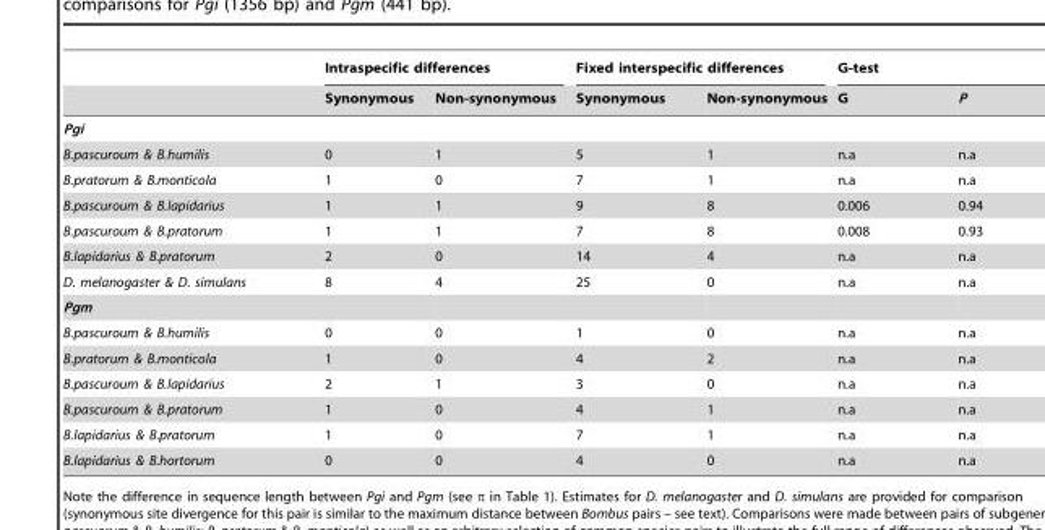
<table><thead><tr><td rowspan="2"></td><td colspan="2">Intraspecific differences</td><td colspan="2">Fixed interspecific differences</td><td colspan="2">G-test</td></tr><tr><td>Synonymous</td><td>Non-synonymous</td><td>Synonymous</td><td>Non-synonymous</td><td>G</td><td>P</td></tr></thead><tbody><tr><td colspan="7">Pgi</td></tr><tr><td>B.pascuroum &amp; B.humilis</td><td>0</td><td>1</td><td>5</td><td>1</td><td>n.a</td><td>n.a</td></tr><tr><td>B.pratorum &amp; B.monticola</td><td>1</td><td>0</td><td>7</td><td>1</td><td>n.a</td><td>n.a</td></tr><tr><td>B.pascuroum &amp; B.lapidarius</td><td>1</td><td>1</td><td>9</td><td>8</td><td>0.006</td><td>0.94</td></tr><tr><td>B.pascuroum &amp; B.pratorum</td><td>1</td><td>1</td><td>7</td><td>8</td><td>0.008</td><td>0.93</td></tr><tr><td>B.lapidarius &amp; B.pratorum</td><td>2</td><td>0</td><td>14</td><td>4</td><td>n.a</td><td>n.a</td></tr><tr><td>D. melanogaster &amp; D. simulans</td><td>8</td><td>4</td><td>25</td><td>0</td><td>n.a</td><td>n.a</td></tr><tr><td colspan="7">Pgm</td></tr><tr><td>B.pascuroum &amp; B.humilis</td><td>0</td><td>0</td><td>1</td><td>0</td><td>n.a</td><td>n.a</td></tr><tr><td>B.pratorum &amp; B.monticola</td><td>1</td><td>0</td><td>4</td><td>2</td><td>n.a</td><td>n.a</td></tr><tr><td>B.pascuroum &amp; B.lapidarius</td><td>2</td><td>1</td><td>3</td><td>0</td><td>n.a</td><td>n.a</td></tr><tr><td>B.pascuroum &amp; B.pratorum</td><td>1</td><td>0</td><td>4</td><td>1</td><td>n.a</td><td>n.a</td></tr><tr><td>B.lapidarius &amp; B.pratorum</td><td>1</td><td>0</td><td>7</td><td>1</td><td>n.a</td><td>n.a</td></tr><tr><td>B.lapidarius &amp; B.hortorum</td><td>0</td><td>0</td><td>4</td><td>0</td><td>n.a</td><td>n.a</td></tr></tbody></table>